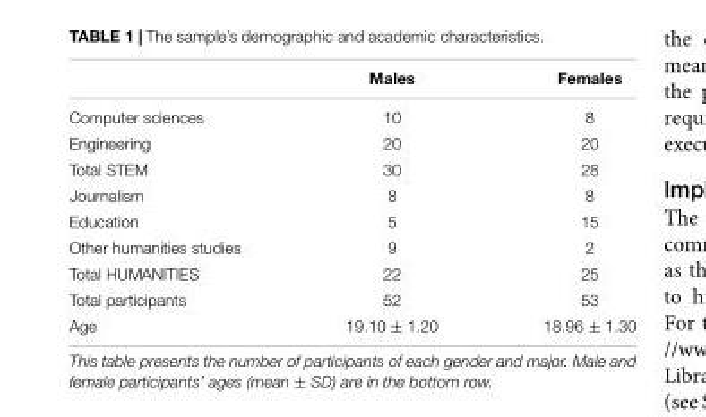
<table><thead><tr><td></td><td>Males</td><td>Females</td></tr></thead><tbody><tr><td>Computer sciences</td><td>10</td><td>8</td></tr><tr><td>Engineering</td><td>20</td><td>20</td></tr><tr><td>Total STEM</td><td>30</td><td>28</td></tr><tr><td>Journalism</td><td>8</td><td>8</td></tr><tr><td>Education</td><td>5</td><td>15</td></tr><tr><td>Other humanities studies</td><td>9</td><td>2</td></tr><tr><td>Total HUMANITIES</td><td>22</td><td>25</td></tr><tr><td>Total participants</td><td>52</td><td>53</td></tr><tr><td>Age</td><td>19.10 ± 1.20</td><td>18.96 ± 1.30</td></tr></tbody></table>